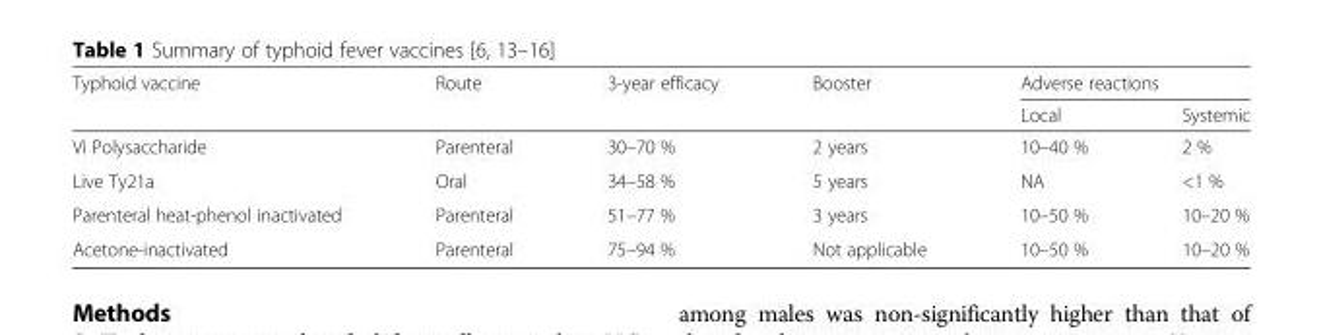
<table><thead><tr><td rowspan="2">Typhoid vaccine</td><td rowspan="2">Route</td><td rowspan="2">3-year efficacy</td><td rowspan="2">Booster</td><td colspan="2">Adverse reactions</td></tr><tr><td>Local</td><td>Systemic</td></tr></thead><tbody><tr><td>Vi Polysaccharide</td><td>Parenteral</td><td>30–70 %</td><td>2 years</td><td>10–40 %</td><td>2 %</td></tr><tr><td>Live Ty21a</td><td>Oral</td><td>34–58 %</td><td>5 years</td><td>NA</td><td>&lt;1 %</td></tr><tr><td>Parenteral heat-phenol inactivated</td><td>Parenteral</td><td>51–77 %</td><td>3 years</td><td>10–50 %</td><td>10–20 %</td></tr><tr><td>Acetone-inactivated</td><td>Parenteral</td><td>75–94 %</td><td>Not applicable</td><td>10–50 %</td><td>10–20 %</td></tr></tbody></table>